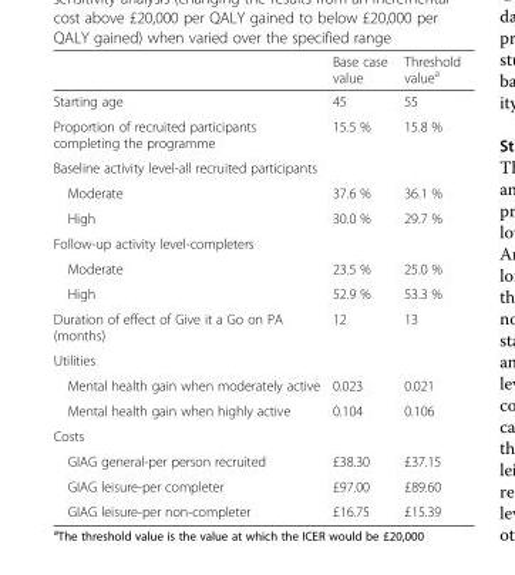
<table><thead><tr><td></td><td>Base case value</td><td>Threshold value<sup>a</sup></td></tr></thead><tbody><tr><td>Starting age</td><td>45</td><td>55</td></tr><tr><td>Proportion of recruited participants completing the programme</td><td>15.5 %</td><td>15.8 %</td></tr><tr><td colspan="3">Baseline activity level-all recruited participants</td></tr><tr><td>Moderate</td><td>37.6 %</td><td>36.1 %</td></tr><tr><td>High</td><td>30.0 %</td><td>29.7 %</td></tr><tr><td colspan="3">Follow-up activity level-completers</td></tr><tr><td>Moderate</td><td>23.5 %</td><td>25.0 %</td></tr><tr><td>High</td><td>52.9 %</td><td>53.3 %</td></tr><tr><td>Duration of effect of Give it a Go on PA (months)</td><td>12</td><td>13</td></tr><tr><td colspan="3">Utilities</td></tr><tr><td>Mental health gain when moderately active</td><td>0.023</td><td>0.021</td></tr><tr><td>Mental health gain when highly active</td><td>0.104</td><td>0.106</td></tr><tr><td colspan="3">Costs</td></tr><tr><td>GIAG general-per person recruited</td><td>£38.30</td><td>£37.15</td></tr><tr><td>GIAG leisure-per completer</td><td>£97.00</td><td>£89.60</td></tr><tr><td>GIAG leisure-per non-completer</td><td>£16.75</td><td>£15.39</td></tr></tbody></table>